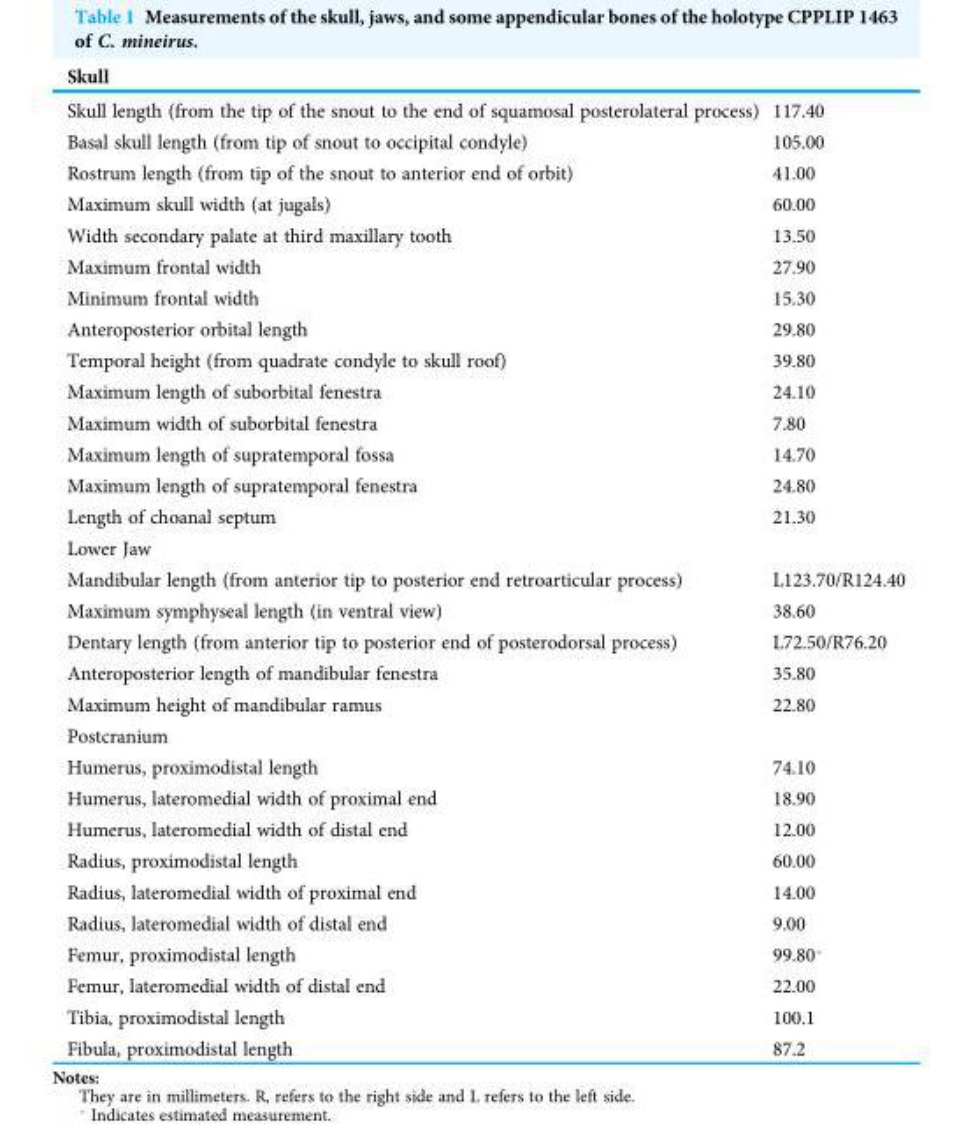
<table><thead><tr><td>Skull</td><td></td></tr></thead><tbody><tr><td>Skull length (from the tip of the snout to the end of squamosal posterolateral process)</td><td>117.40</td></tr><tr><td>Basal skull length (from tip of snout to occipital condyle)</td><td>105.00</td></tr><tr><td>Rostrum length (from tip of the snout to anterior end of orbit)</td><td>41.00</td></tr><tr><td>Maximum skull width (at jugals)</td><td>60.00</td></tr><tr><td>Width secondary palate at third maxillary tooth</td><td>13.50</td></tr><tr><td>Maximum frontal width</td><td>27.90</td></tr><tr><td>Minimum frontal width</td><td>15.30</td></tr><tr><td>Anteroposterior orbital length</td><td>29.80</td></tr><tr><td>Temporal height (from quadrate condyle to skull roof)</td><td>39.80</td></tr><tr><td>Maximum length of suborbital fenestra</td><td>24.10</td></tr><tr><td>Maximum width of suborbital fenestra</td><td>7.80</td></tr><tr><td>Maximum length of supratemporal fossa</td><td>14.70</td></tr><tr><td>Maximum length of supratemporal fenestra</td><td>24.80</td></tr><tr><td>Length of choanal septum</td><td>21.30</td></tr><tr><td colspan="2">Lower Jaw</td></tr><tr><td>Mandibular length (from anterior tip to posterior end retroarticular process)</td><td>L123.70/R124.40</td></tr><tr><td>Maximum symphyseal length (in ventral view)</td><td>38.60</td></tr><tr><td>Dentary length (from anterior tip to posterior end of posterodorsal process)</td><td>L72.50/R76.20</td></tr><tr><td>Anteroposterior length of mandibular fenestra</td><td>35.80</td></tr><tr><td>Maximum height of mandibular ramus</td><td>22.80</td></tr><tr><td colspan="2">Postcranium</td></tr><tr><td>Humerus, proximodistal length</td><td>74.10</td></tr><tr><td>Humerus, lateromedial width of proximal end</td><td>18.90</td></tr><tr><td>Humerus, lateromedial width of distal end</td><td>12.00</td></tr><tr><td>Radius, proximodistal length</td><td>60.00</td></tr><tr><td>Radius, lateromedial width of proximal end</td><td>14.00</td></tr><tr><td>Radius, lateromedial width of distal end</td><td>9.00</td></tr><tr><td>Femur, proximodistal length</td><td>99.80*</td></tr><tr><td>Femur, lateromedial width of distal end</td><td>22.00</td></tr><tr><td>Tibia, proximodistal length</td><td>100.1</td></tr><tr><td>Fibula, proximodistal length</td><td>87.2</td></tr></tbody></table>